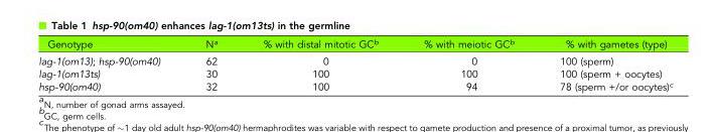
<table><thead><tr><td>Genotype</td><td>N<sup>a</sup></td><td>% with distal mitotic GC<sup>b</sup></td><td>% with meiotic GC<sup>b</sup></td><td>% with gametes (type)</td></tr></thead><tbody><tr><td>lag-1(om13); hsp-90(om40)</td><td>62</td><td>0</td><td>0</td><td>100 (sperm)</td></tr><tr><td>lag-1(om13ts)</td><td>30</td><td>100</td><td>100</td><td>100 (sperm + oocytes)</td></tr><tr><td>hsp-90(om40)</td><td>32</td><td>100</td><td>94</td><td>78 (sperm +/or oocytes)<sup>c</sup></td></tr></tbody></table>